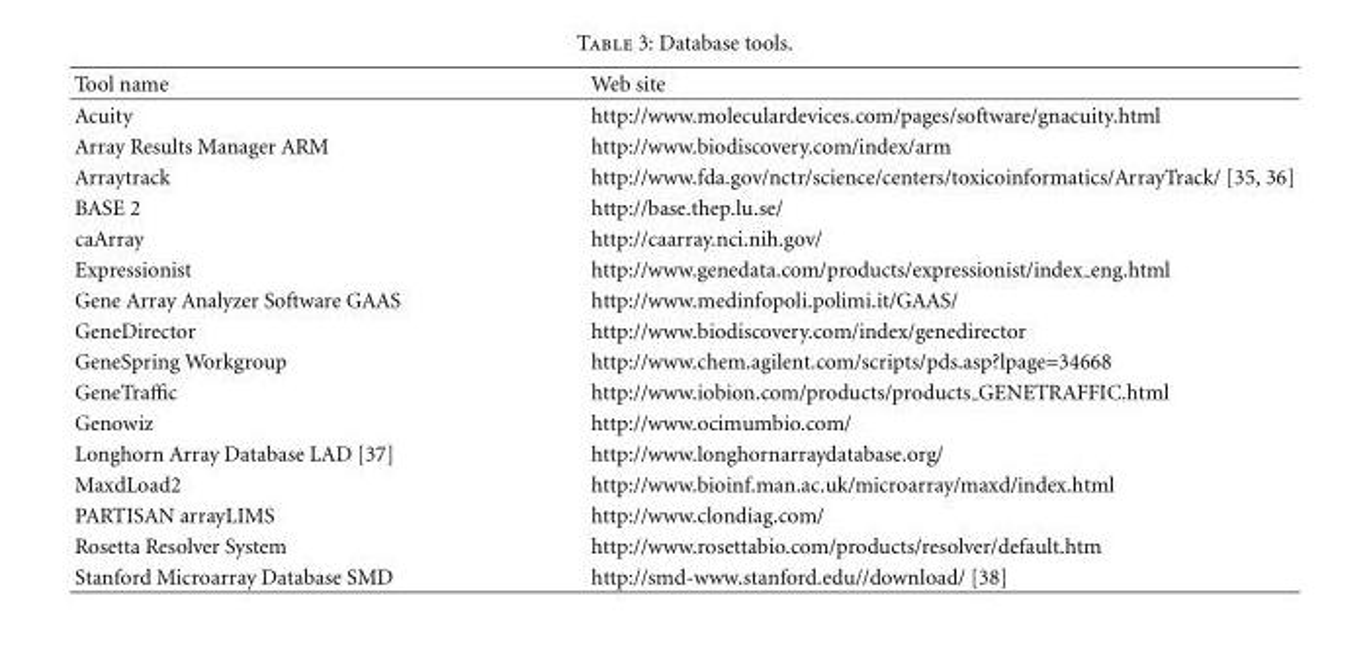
<table><thead><tr><td>Tool name</td><td>Web site</td></tr></thead><tbody><tr><td>Acuity</td><td>http://www.moleculardevices.com/pages/software/gnacuity.html</td></tr><tr><td>Array Results Manager ARM</td><td>http://www.biodiscovery.com/index/arm</td></tr><tr><td>Arraytrack</td><td>http://www.fda.gov/nctr/science/centers/toxicoinformatics/ArrayTrack/ [35, 36]</td></tr><tr><td>BASE 2</td><td>http://base.thep.lu.se/</td></tr><tr><td>caArray</td><td>http://caarray.nci.nih.gov/</td></tr><tr><td>Expressionist</td><td>http://www.genedata.com/products/expressionist/index eng.html</td></tr><tr><td>Gene Array Analyzer Software GAAS</td><td>http://www.medinfopoli.polimi.it/GAAS/</td></tr><tr><td>GeneDirector</td><td>http://www.biodiscovery.com/index/genedirector</td></tr><tr><td>GeneSpring Workgroup</td><td>http://www.chem.agilent.com/scripts/pds.asp?lpage=34668</td></tr><tr><td>GeneTraffic</td><td>http://www.iobion.com/products/products GENETRAFFIC.html</td></tr><tr><td>Genowiz</td><td>http://www.ocimumbio.com/</td></tr><tr><td>Longhorn Array Database LAD [37]</td><td>http://www.longhornarraydatabase.org/</td></tr><tr><td>MaxdLoad2</td><td>http://www.bioinf.man.ac.uk/microarray/maxd/index.html</td></tr><tr><td>PARTISAN arrayLIMS</td><td>http://www.clondiag.com/</td></tr><tr><td>Rosetta Resolver System</td><td>http://www.rosettabio.com/products/resolver/default.htm</td></tr><tr><td>Stanford Microarray Database SMD</td><td>http://smd-www.stanford.edu//download/ [38]</td></tr></tbody></table>